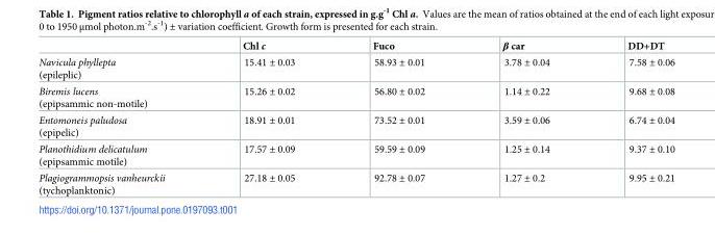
<table><thead><tr><td></td><td>Chl c</td><td>Fuco</td><td>β car</td><td>DD+DT</td></tr></thead><tbody><tr><td>Navicula phyllepta (epileplic)</td><td>15.41 ± 0.03</td><td>58.93 ± 0.01</td><td>3.78 ± 0.04</td><td>7.58 ± 0.06</td></tr><tr><td>Biremis lucens (epipsammic non-motile)</td><td>15.26 ± 0.02</td><td>56.80 ± 0.02</td><td>1.14 ± 0.22</td><td>9.68 ± 0.08</td></tr><tr><td>Entomoneis paludosa (epipelic)</td><td>18.91 ± 0.01</td><td>73.52 ± 0.01</td><td>3.59 ± 0.06</td><td>6.74 ± 0.04</td></tr><tr><td>Planothidium delicatulum (epipsammic motile)</td><td>17.57 ± 0.09</td><td>59.59 ± 0.09</td><td>1.25 ± 0.14</td><td>9.37 ± 0.10</td></tr><tr><td>Plagiogrammopsis vanheurckii (tychoplanktonic)</td><td>27.18 ± 0.05</td><td>92.78 ± 0.07</td><td>1.27 ± 0.2</td><td>9.95 ± 0.21</td></tr></tbody></table>